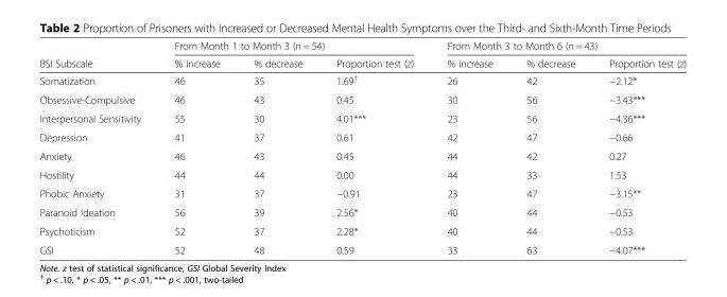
<table><thead><tr><td rowspan="2">BSI Subscale</td><td colspan="3">From Month 1 to Month 3 (n = 54)</td><td colspan="3">From Month 3 to Month 6 (n = 43)</td></tr><tr><td>% increase</td><td>% decrease</td><td>Proportion test (z)</td><td>% increase</td><td>% decrease</td><td>Proportion test (z)</td></tr></thead><tbody><tr><td>Somatization</td><td>46</td><td>35</td><td>1.69<sup>†</sup></td><td>26</td><td>42</td><td>−2.12*</td></tr><tr><td>Obsessive-Compulsive</td><td>46</td><td>43</td><td>0.45</td><td>30</td><td>56</td><td>−3.43***</td></tr><tr><td>Interpersonal Sensitivity</td><td>55</td><td>30</td><td>4.01***</td><td>23</td><td>56</td><td>−4.36***</td></tr><tr><td>Depression</td><td>41</td><td>37</td><td>0.61</td><td>42</td><td>47</td><td>−0.66</td></tr><tr><td>Anxiety</td><td>46</td><td>43</td><td>0.45</td><td>44</td><td>42</td><td>0.27</td></tr><tr><td>Hostility</td><td>44</td><td>44</td><td>0.00</td><td>44</td><td>33</td><td>1.53</td></tr><tr><td>Phobic Anxiety</td><td>31</td><td>37</td><td>−0.91</td><td>23</td><td>47</td><td>−3.15**</td></tr><tr><td>Paranoid Ideation</td><td>56</td><td>39</td><td>2.56*</td><td>40</td><td>44</td><td>−0.53</td></tr><tr><td>Psychoticism</td><td>52</td><td>37</td><td>2.28*</td><td>40</td><td>44</td><td>−0.53</td></tr><tr><td>GSI</td><td>52</td><td>48</td><td>0.59</td><td>33</td><td>63</td><td>−4.07***</td></tr></tbody></table>